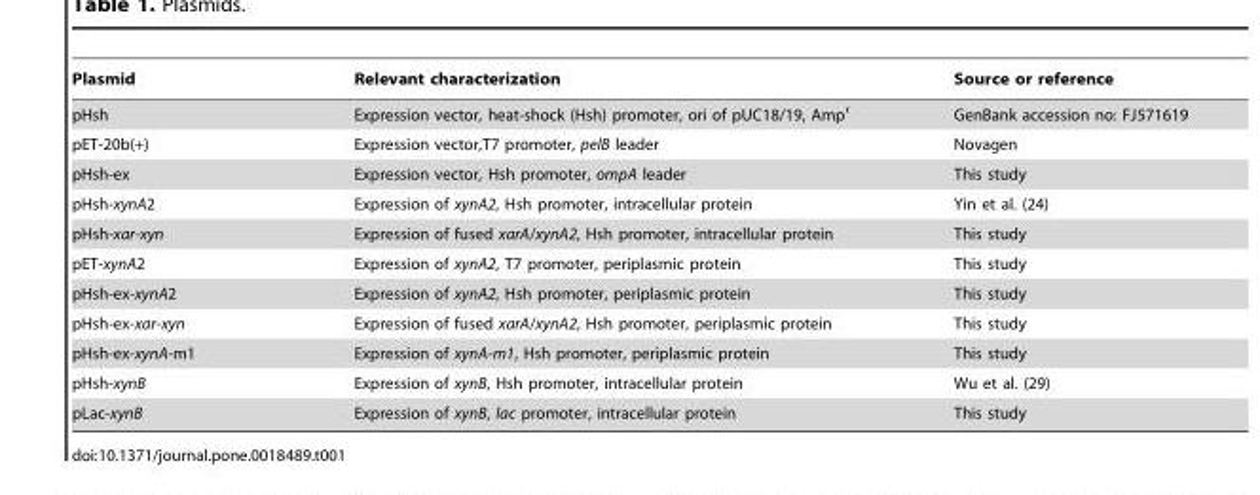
<table><thead><tr><td>Plasmid</td><td>Relevant characterization</td><td>Source or reference</td></tr></thead><tbody><tr><td>pHsh</td><td>Expression vector, heat-shock (Hsh) promoter, ori of pUC18/19, Amp<sup>r</sup></td><td>GenBank accession no: FJ571619</td></tr><tr><td>pET-20b(+)</td><td>Expression vector,T7 promoter, pelB leader</td><td>Novagen</td></tr><tr><td>pHsh-ex</td><td>Expression vector, Hsh promoter, ompA leader</td><td>This study</td></tr><tr><td>pHsh-xynA2</td><td>Expression of xynA2, Hsh promoter, intracellular protein</td><td>Yin et al. (24)</td></tr><tr><td>pHsh-xar-xyn</td><td>Expression of fused xarA/xynA2, Hsh promoter, intracellular protein</td><td>This study</td></tr><tr><td>pET-xynA2</td><td>Expression of xynA2, T7 promoter, periplasmic protein</td><td>This study</td></tr><tr><td>pHsh-ex-xynA2</td><td>Expression of xynA2, Hsh promoter, periplasmic protein</td><td>This study</td></tr><tr><td>pHsh-ex-xar-xyn</td><td>Expression of fused xarA/xynA2, Hsh promoter, periplasmic protein</td><td>This study</td></tr><tr><td>pHsh-ex-xynA-m1</td><td>Expression of xynA-m1, Hsh promoter, periplasmic protein</td><td>This study</td></tr><tr><td>pHsh-xynB</td><td>Expression of xynB, Hsh promoter, intracellular protein</td><td>Wu et al. (29)</td></tr><tr><td>pLac-xynB</td><td>Expression of xynB, lac promoter, intracellular protein</td><td>This study</td></tr></tbody></table>